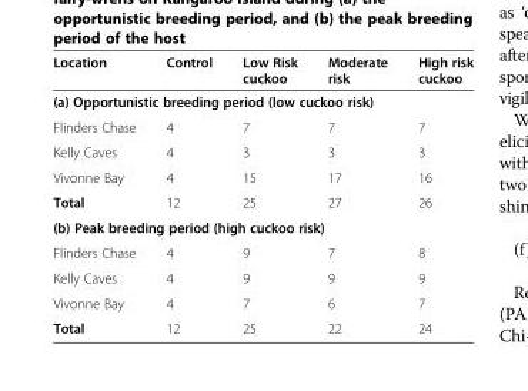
<table><thead><tr><td>Location</td><td>Control</td><td>Low Risk cuckoo</td><td>Moderate risk</td><td>High risk cuckoo</td></tr></thead><tbody><tr><td colspan="5">(a) Opportunistic breeding period (low cuckoo risk)</td></tr><tr><td>Flinders Chase</td><td>4</td><td>7</td><td>7</td><td>7</td></tr><tr><td>Kelly Caves</td><td>4</td><td>3</td><td>3</td><td>3</td></tr><tr><td>Vivonne Bay</td><td>4</td><td>15</td><td>17</td><td>16</td></tr><tr><td>Total</td><td>12</td><td>25</td><td>27</td><td>26</td></tr><tr><td colspan="5">(b) Peak breeding period (high cuckoo risk)</td></tr><tr><td>Flinders Chase</td><td>4</td><td>9</td><td>7</td><td>8</td></tr><tr><td>Kelly Caves</td><td>4</td><td>9</td><td>9</td><td>9</td></tr><tr><td>Vivonne Bay</td><td>4</td><td>7</td><td>6</td><td>7</td></tr><tr><td>Total</td><td>12</td><td>25</td><td>22</td><td>24</td></tr></tbody></table>